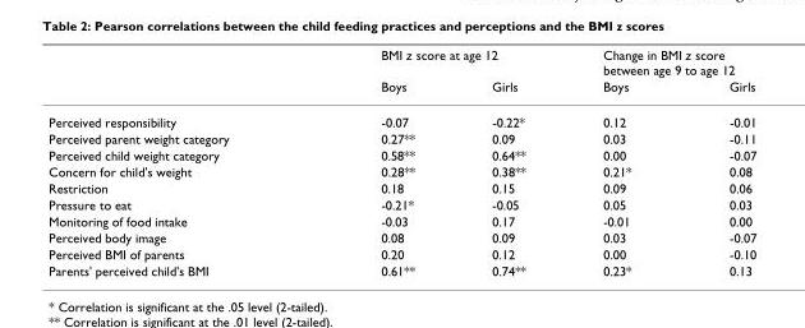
<table><thead><tr><td rowspan="2"></td><td colspan="2">BMI z score at age 12</td><td colspan="2">Change in BMI z score between age 9 to age 12</td></tr><tr><td>Boys</td><td>Girls</td><td>Boys</td><td>Girls</td></tr></thead><tbody><tr><td>Perceived responsibility</td><td>-0.07</td><td>-0.22*</td><td>0.12</td><td>-0.01</td></tr><tr><td>Perceived parent weight category</td><td>0.27**</td><td>0.09</td><td>0.03</td><td>-0.11</td></tr><tr><td>Perceived child weight category</td><td>0.58**</td><td>0.64**</td><td>0.00</td><td>-0.07</td></tr><tr><td>Concern for child&#x27;s weight</td><td>0.28**</td><td>0.38**</td><td>0.21*</td><td>0.08</td></tr><tr><td>Restriction</td><td>0.18</td><td>0.15</td><td>0.09</td><td>0.06</td></tr><tr><td>Pressure to eat</td><td>-0.21*</td><td>-0.05</td><td>0.05</td><td>0.03</td></tr><tr><td>Monitoring of food intake</td><td>-0.03</td><td>0.17</td><td>-0.01</td><td>0.00</td></tr><tr><td>Perceived body image</td><td>0.08</td><td>0.09</td><td>0.03</td><td>-0.07</td></tr><tr><td>Perceived BMI of parents</td><td>0.20</td><td>0.12</td><td>0.00</td><td>-0.10</td></tr><tr><td>Parents&#x27; perceived child&#x27;s BMI</td><td>0.61**</td><td>0.74**</td><td>0.23*</td><td>0.13</td></tr></tbody></table>